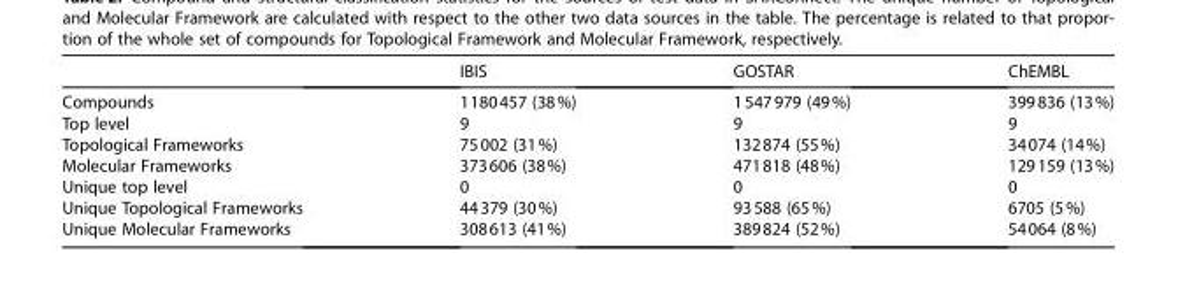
<table><thead><tr><td></td><td>IBIS</td><td>GOSTAR</td><td>ChEMBL</td></tr></thead><tbody><tr><td>Compounds</td><td>1180457 (38%)</td><td>1547979 (49%)</td><td>399836 (13%)</td></tr><tr><td>Top level</td><td>9</td><td>9</td><td>9</td></tr><tr><td>Topological Frameworks</td><td>75002 (31%)</td><td>132874 (55%)</td><td>34074 (14%)</td></tr><tr><td>Molecular Frameworks</td><td>373606 (38%)</td><td>471818 (48%)</td><td>129159 (13%)</td></tr><tr><td>Unique top level</td><td>0</td><td>0</td><td>0</td></tr><tr><td>Unique Topological Frameworks</td><td>44379 (30%)</td><td>93588 (65%)</td><td>6705 (5%)</td></tr><tr><td>Unique Molecular Frameworks</td><td>308613 (41%)</td><td>389824 (52%)</td><td>54064 (8%)</td></tr></tbody></table>